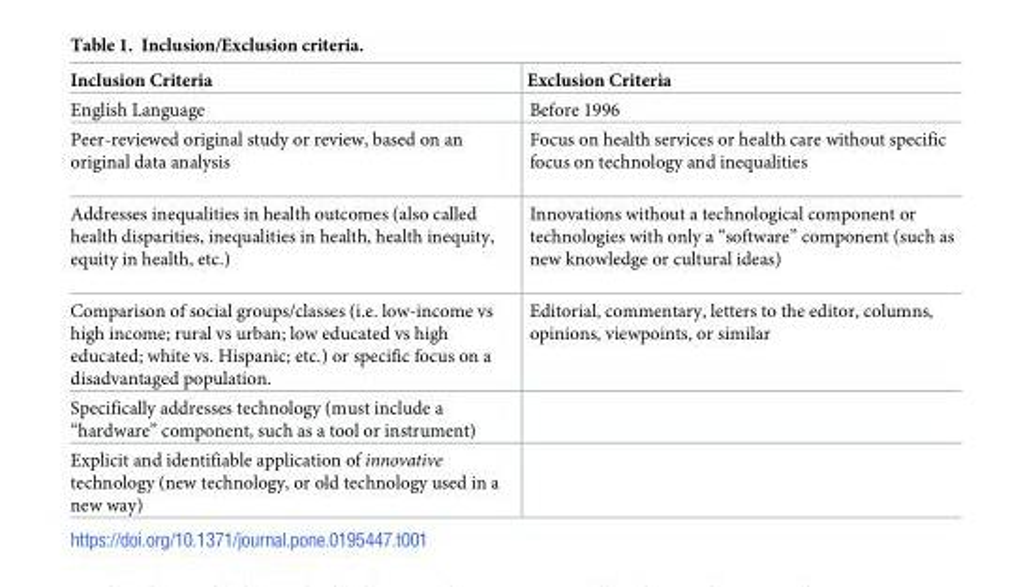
<table><thead><tr><td>Inclusion Criteria</td><td>Exclusion Criteria</td></tr></thead><tbody><tr><td>English Language</td><td>Before 1996</td></tr><tr><td>Peer-reviewed original study or review, based on an original data analysis</td><td>Focus on health services or health care without specific focus on technology and inequalities</td></tr><tr><td>Addresses inequalities in health outcomes (also called health disparities, inequalities in health, health inequity, equity in health, etc.)</td><td>Innovations without a technological component or technologies with only a “software” component (such as new knowledge or cultural ideas)</td></tr><tr><td>Comparison of social groups/classes (i.e. low-income vs high income; rural vs urban; low educated vs high educated; white vs. Hispanic; etc.) or specific focus on a disadvantaged population.</td><td>Editorial, commentary, letters to the editor, columns, opinions, viewpoints, or similar</td></tr><tr><td colspan="2">Specifically addresses technology (must include a “hardware” component, such as a tool or instrument)</td></tr><tr><td>Explicit and identifiable application of innovative technology (new technology, or old technology used in a new way)</td><td></td></tr></tbody></table>